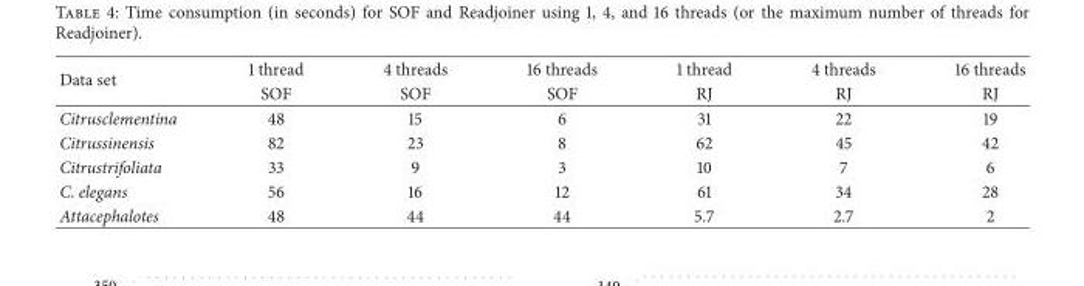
<table><thead><tr><td rowspan="2">Data set</td><td rowspan="2">1 thread SOF</td><td rowspan="2">4 threads SOF</td><td rowspan="2">16 threads SOF</td><td rowspan="2">1 thread RJ</td><td rowspan="2">4 threads RJ</td><td rowspan="2">16 threads RJ</td></tr><tr></tr></thead><tbody><tr><td>Citrusclementina</td><td>48</td><td>15</td><td>6</td><td>31</td><td>22</td><td>19</td></tr><tr><td>Citrussinensis</td><td>82</td><td>23</td><td>8</td><td>62</td><td>45</td><td>42</td></tr><tr><td>Citrustrifoliata</td><td>33</td><td>9</td><td>3</td><td>10</td><td>7</td><td>6</td></tr><tr><td>C. elegans</td><td>56</td><td>16</td><td>12</td><td>61</td><td>34</td><td>28</td></tr><tr><td>Attacephalotes</td><td>48</td><td>44</td><td>44</td><td>5.7</td><td>2.7</td><td>2</td></tr></tbody></table>